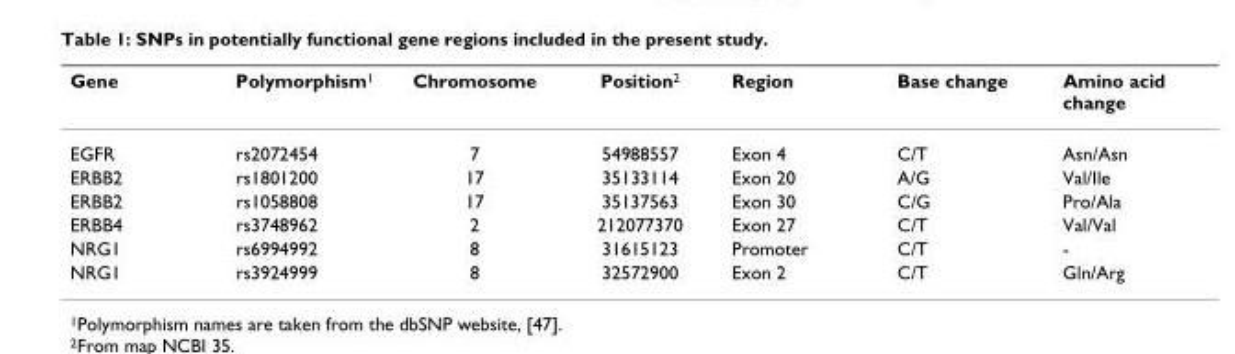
<table><thead><tr><td>Gene</td><td>Polymorphism<sup>1</sup></td><td>Chromosome</td><td>Position<sup>2</sup></td><td>Region</td><td>Base change</td><td>Amino acid change</td></tr></thead><tbody><tr><td>EGFR</td><td>rs2072454</td><td>7</td><td>54988557</td><td>Exon 4</td><td>C/T</td><td>Asn/Asn</td></tr><tr><td>ERBB2</td><td>rs1801200</td><td>17</td><td>35133114</td><td>Exon 20</td><td>A/G</td><td>Val/Ile</td></tr><tr><td>ERBB2</td><td>rs1058808</td><td>17</td><td>35137563</td><td>Exon 30</td><td>C/G</td><td>Pro/Ala</td></tr><tr><td>ERBB4</td><td>rs3748962</td><td>2</td><td>212077370</td><td>Exon 27</td><td>C/T</td><td>Val/Val</td></tr><tr><td>NRG1</td><td>rs6994992</td><td>8</td><td>31615123</td><td>Promoter</td><td>C/T</td><td>-</td></tr><tr><td>NRG1</td><td>rs3924999</td><td>8</td><td>32572900</td><td>Exon 2</td><td>C/T</td><td>Gln/Arg</td></tr></tbody></table>